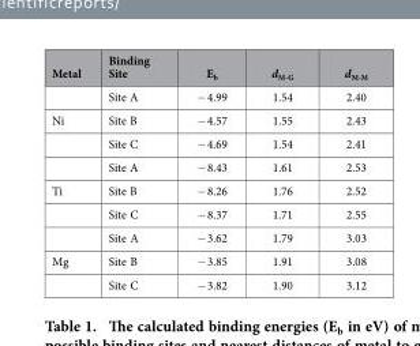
<table><thead><tr><td>Metal</td><td>Binding Site</td><td>E<sub>b</sub></td><td>d<sub>M-G</sub></td><td>d<sub>M-M</sub></td></tr></thead><tbody><tr><td></td><td>Site A</td><td>− 4.99</td><td>1.54</td><td>2.40</td></tr><tr><td rowspan="3">Ni</td><td>Site B</td><td>− 4.57</td><td>1.55</td><td>2.43</td></tr><tr><td>Site C</td><td>− 4.69</td><td>1.54</td><td>2.41</td></tr><tr><td>Site A</td><td>− 8.43</td><td>1.61</td><td>2.53</td></tr><tr><td rowspan="3">Ti</td><td>Site B</td><td>− 8.26</td><td>1.76</td><td>2.52</td></tr><tr><td>Site C</td><td>− 8.37</td><td>1.71</td><td>2.55</td></tr><tr><td>Site A</td><td>− 3.62</td><td>1.79</td><td>3.03</td></tr><tr><td rowspan="2">Mg</td><td>Site B</td><td>− 3.85</td><td>1.91</td><td>3.08</td></tr><tr><td>Site C</td><td>− 3.82</td><td>1.90</td><td>3.12</td></tr></tbody></table>